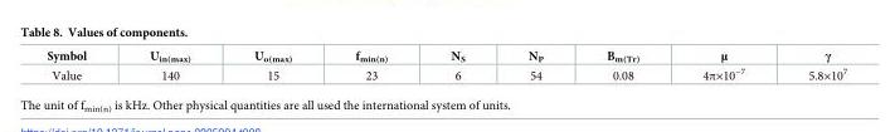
<table><thead><tr><td>Symbol</td><td>U<sub>in(max)</sub></td><td>U<sub>o(max)</sub></td><td>f<sub>min(n)</sub></td><td>N<sub>S</sub></td><td>N<sub>P</sub></td><td>B<sub>m(Tr)</sub></td><td>μ</td><td>γ</td></tr></thead><tbody><tr><td>Value</td><td>140</td><td>15</td><td>23</td><td>6</td><td>54</td><td>0.08</td><td>4π×10<sup>−7</sup></td><td>5.8×10<sup>7</sup></td></tr></tbody></table>